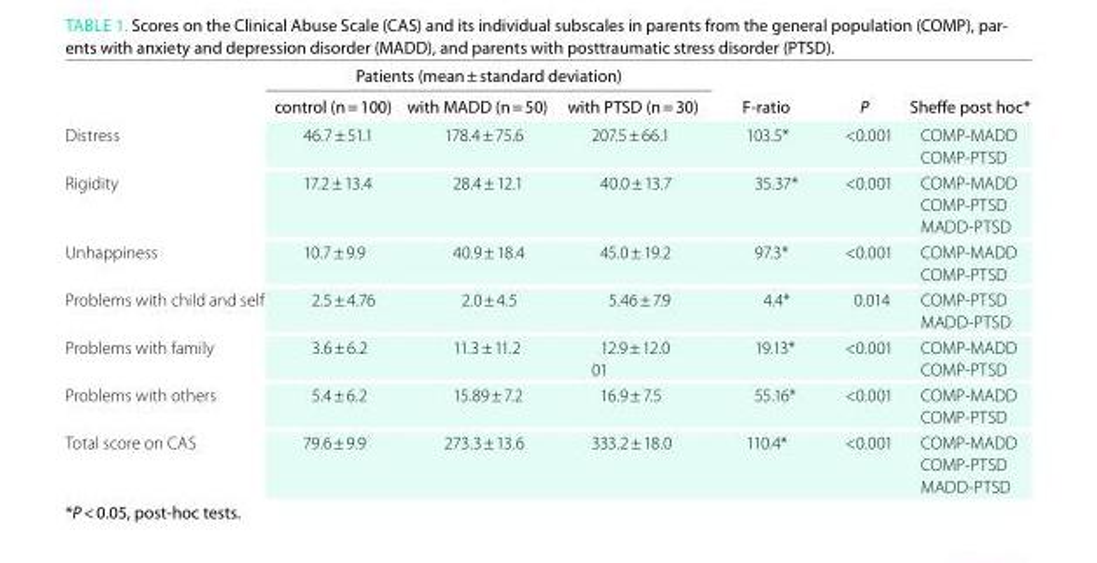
<table><thead><tr><td rowspan="2"></td><td colspan="3">Patients (mean ± standard deviation)</td><td rowspan="2">F-ratio</td><td rowspan="2">P</td><td rowspan="2">sheffe post hoc*</td></tr><tr><td>control (n = 100)</td><td>with MAdd (n = 50)</td><td>with Ptsd (n = 30)</td></tr></thead><tbody><tr><td>Distress</td><td>46.7 ± 51.1</td><td>178.4 ± 75.6</td><td>207.5 ± 66.1</td><td>103.5*</td><td>&lt;0.001</td><td>COMP-MADD COMP-PTSD</td></tr><tr><td>Rigidity</td><td>17.2 ± 13.4</td><td>28.4 ± 12.1</td><td>40.0 ± 13.7</td><td>35.37*</td><td>&lt;0.001</td><td>COMP-MADD COMP-PTSD MADD-PTSD</td></tr><tr><td>Unhappiness</td><td>10.7 ± 9.9</td><td>40.9 ± 18.4</td><td>45.0 ± 19.2</td><td>97.3*</td><td>&lt;0.001</td><td>COMP-MADD COMP-PTSD</td></tr><tr><td>Problems with child and self</td><td>2.5 ± 4.76</td><td>2.0 ± 4.5</td><td>5.46 ± 7.9</td><td>4.4*</td><td>0.014</td><td>COMP-PTSD MADD-PTSD</td></tr><tr><td>Problems with family</td><td>3.6 ± 6.2</td><td>11.3 ± 11.2</td><td>12.9 ± 12.0 01</td><td>19.13*</td><td>&lt;0.001</td><td>COMP-MADD COMP-PTSD</td></tr><tr><td>Problems with others</td><td>5.4 ± 6.2</td><td>15.89 ± 7.2</td><td>16.9 ± 7.5</td><td>55.16*</td><td>&lt;0.001</td><td>COMP-MADD COMP-PTSD</td></tr><tr><td>Total score on CAS</td><td>79.6 ± 9.9</td><td>273.3 ± 13.6</td><td>333.2 ± 18.0</td><td>110.4*</td><td>&lt;0.001</td><td>COMP-MADD COMP-PTSD MADD-PTSD</td></tr></tbody></table>